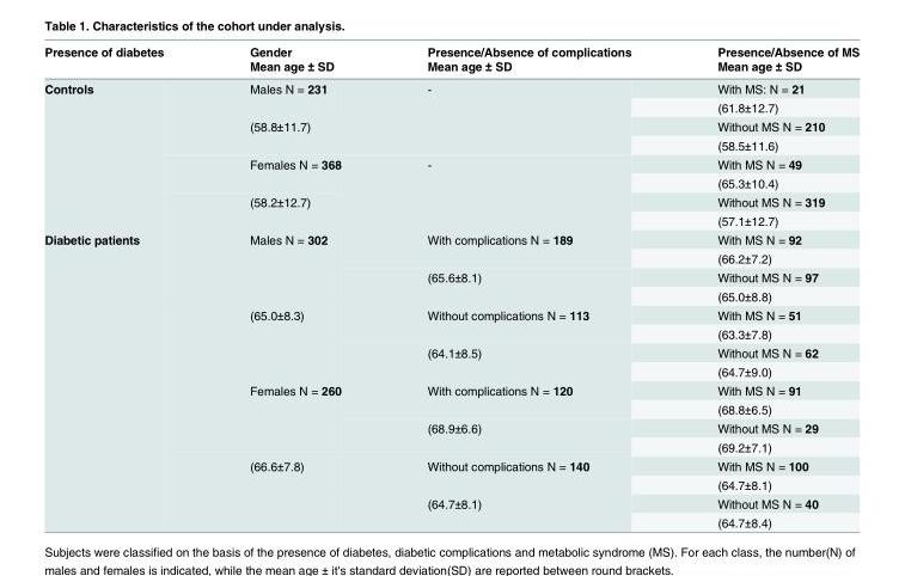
<table><thead><tr><td rowspan="2">Presence of diabetes</td><td rowspan="2">Gender Mean age ± SD</td><td rowspan="2">Presence/Absence of complications Mean age ± SD</td><td rowspan="2">Presence/Absence of MS Mean age ± SD</td></tr><tr></tr></thead><tbody><tr><td rowspan="8">Controls</td><td rowspan="2">Males N = 231</td><td rowspan="4">-</td><td>With MS: N = 21</td></tr><tr><td>(61.8±12.7)</td></tr><tr><td rowspan="2">(58.8±11.7)</td><td>Without MS N = 210</td></tr><tr><td>(58.5±11.6)</td></tr><tr><td rowspan="2">Females N = 368</td><td rowspan="4">-</td><td>With MS N = 49</td></tr><tr><td>(65.3±10.4)</td></tr><tr><td rowspan="2">(58.2±12.7)</td><td>Without MS N = 319</td></tr><tr><td>(57.1±12.7)</td></tr><tr><td rowspan="16">Diabetic patients</td><td rowspan="4">Males N = 302</td><td rowspan="2">With complications N = 189</td><td>With MS N = 92</td></tr><tr><td>(66.2±7.2)</td></tr><tr><td rowspan="2">(65.6±8.1)</td><td>Without MS N = 97</td></tr><tr><td>(65.0±8.8)</td></tr><tr><td rowspan="4">(65.0±8.3)</td><td rowspan="2">Without complications N = 113</td><td>With MS N = 51</td></tr><tr><td>(63.3±7.8)</td></tr><tr><td rowspan="2">(64.1±8.5)</td><td>Without MS N = 62</td></tr><tr><td>(64.7±9.0)</td></tr><tr><td rowspan="4">Females N = 260</td><td rowspan="2">With complications N = 120</td><td>With MS N = 91</td></tr><tr><td>(68.8±6.5)</td></tr><tr><td rowspan="2">(68.9±6.6)</td><td>Without MS N = 29</td></tr><tr><td>(69.2±7.1)</td></tr><tr><td rowspan="4">(66.6±7.8)</td><td rowspan="2">Without complications N = 140</td><td>With MS N = 100</td></tr><tr><td>(64.7±8.1)</td></tr><tr><td rowspan="2">(64.7±8.1)</td><td>Without MS N = 40</td></tr><tr><td>(64.7±8.4)</td></tr></tbody></table>